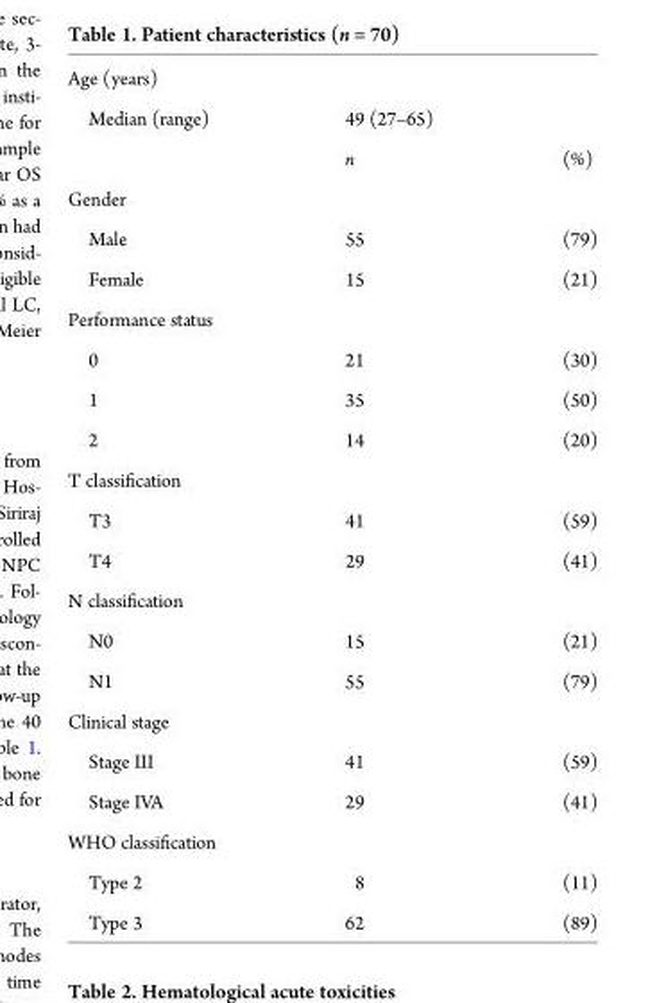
<table><tbody><tr><td colspan="3">Age (years)</td></tr><tr><td rowspan="2">Median (range)</td><td>49 (27–65)</td><td></td></tr><tr><td>n</td><td>(%)</td></tr><tr><td colspan="3">Gender</td></tr><tr><td>Male</td><td>55</td><td>(79)</td></tr><tr><td>Female</td><td>15</td><td>(21)</td></tr><tr><td colspan="3">Performance status</td></tr><tr><td>0</td><td>21</td><td>(30)</td></tr><tr><td>1</td><td>35</td><td>(50)</td></tr><tr><td>2</td><td>14</td><td>(20)</td></tr><tr><td colspan="3">T classification</td></tr><tr><td>T3</td><td>41</td><td>(59)</td></tr><tr><td>T4</td><td>29</td><td>(41)</td></tr><tr><td colspan="3">N classification</td></tr><tr><td>N0</td><td>15</td><td>(21)</td></tr><tr><td>N1</td><td>55</td><td>(79)</td></tr><tr><td colspan="3">Clinical stage</td></tr><tr><td>Stage III</td><td>41</td><td>(59)</td></tr><tr><td>Stage IVA</td><td>29</td><td>(41)</td></tr><tr><td colspan="3">WHO classification</td></tr><tr><td>Type 2</td><td>8</td><td>(11)</td></tr><tr><td>Type 3</td><td>62</td><td>(89)</td></tr></tbody></table>